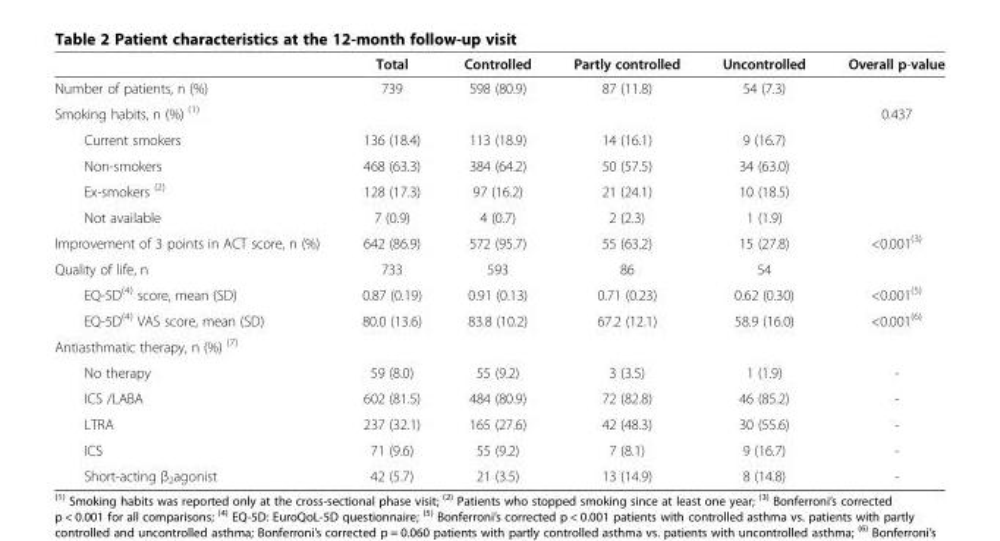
<table><thead><tr><td></td><td>Total</td><td>Controlled</td><td>Partly controlled</td><td>Uncontrolled</td><td>Overall p-value</td></tr></thead><tbody><tr><td>Number of patients, n (%)</td><td>739</td><td>598 (80.9)</td><td>87 (11.8)</td><td>54 (7.3)</td><td></td></tr><tr><td>Smoking habits, n (%) <sup>(1)</sup></td><td></td><td></td><td></td><td></td><td>0.437</td></tr><tr><td>Current smokers</td><td>136 (18.4)</td><td>113 (18.9)</td><td>14 (16.1)</td><td>9 (16.7)</td><td></td></tr><tr><td>Non-smokers</td><td>468 (63.3)</td><td>384 (64.2)</td><td>50 (57.5)</td><td>34 (63.0)</td><td></td></tr><tr><td>Ex-smokers <sup>(2)</sup></td><td>128 (17.3)</td><td>97 (16.2)</td><td>21 (24.1)</td><td>10 (18.5)</td><td></td></tr><tr><td>Not available</td><td>7 (0.9)</td><td>4 (0.7)</td><td>2 (2.3)</td><td>1 (1.9)</td><td></td></tr><tr><td>Improvement of 3 points in ACT score, n (%)</td><td>642 (86.9)</td><td>572 (95.7)</td><td>55 (63.2)</td><td>15 (27.8)</td><td>&lt;0.001<sup>(3)</sup></td></tr><tr><td>Quality of life, n</td><td>733</td><td>593</td><td>86</td><td>54</td><td></td></tr><tr><td>EQ-5D<sup>(4)</sup> score, mean (SD)</td><td>0.87 (0.19)</td><td>0.91 (0.13)</td><td>0.71 (0.23)</td><td>0.62 (0.30)</td><td>&lt;0.001<sup>(5)</sup></td></tr><tr><td>EQ-5D<sup>(4)</sup> VAS score, mean (SD)</td><td>80.0 (13.6)</td><td>83.8 (10.2)</td><td>67.2 (12.1)</td><td>58.9 (16.0)</td><td>&lt;0.001<sup>(6)</sup></td></tr><tr><td colspan="6">Antiasthmatic therapy, n (%) <sup>(7)</sup></td></tr><tr><td>No therapy</td><td>59 (8.0)</td><td>55 (9.2)</td><td>3 (3.5)</td><td>1 (1.9)</td><td>-</td></tr><tr><td>ICS /LABA</td><td>602 (81.5)</td><td>484 (80.9)</td><td>72 (82.8)</td><td>46 (85.2)</td><td>-</td></tr><tr><td>LTRA</td><td>237 (32.1)</td><td>165 (27.6)</td><td>42 (48.3)</td><td>30 (55.6)</td><td>-</td></tr><tr><td>ICS</td><td>71 (9.6)</td><td>55 (9.2)</td><td>7 (8.1)</td><td>9 (16.7)</td><td>-</td></tr><tr><td>Short-acting β<sub>2</sub>agonist</td><td>42 (5.7)</td><td>21 (3.5)</td><td>13 (14.9)</td><td>8 (14.8)</td><td>-</td></tr></tbody></table>